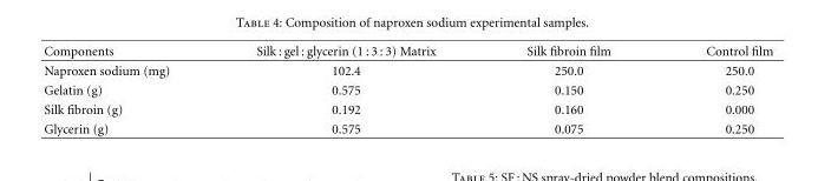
<table><thead><tr><td>Components</td><td>Silk : gel : glycerin (1 : 3 : 3) Matrix</td><td>Silk fibroin film</td><td>Control film</td></tr></thead><tbody><tr><td>Naproxen sodium (mg)</td><td>102.4</td><td>250.0</td><td>250.0</td></tr><tr><td>Gelatin (g)</td><td>0.575</td><td>0.150</td><td>0.250</td></tr><tr><td>Silk fibroin (g)</td><td>0.192</td><td>0.160</td><td>0.000</td></tr><tr><td>Glycerin (g)</td><td>0.575</td><td>0.075</td><td>0.250</td></tr></tbody></table>